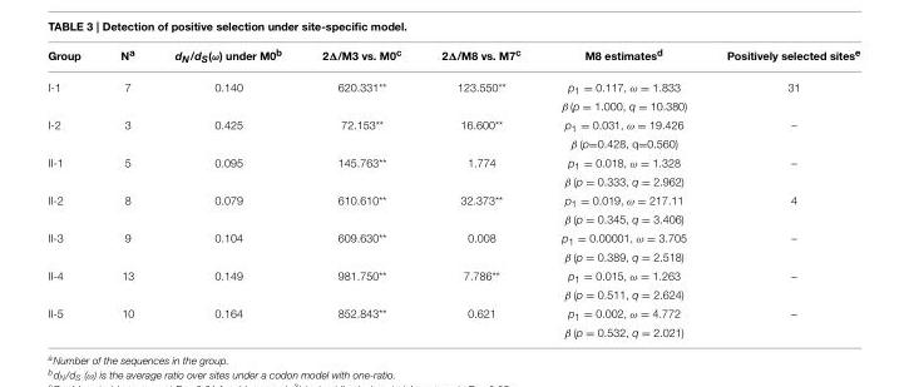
<table><thead><tr><td>Group</td><td>N<sup>a</sup></td><td>d<sub>N</sub>/d<sub>S</sub>(ω) under M0<sup>b</sup></td><td>2Δ/M3 vs. M0<sup>c</sup></td><td>2Δ/M8 vs. M7<sup>c</sup></td><td>M8 estimates<sup>d</sup></td><td>Positively selected sites<sup>e</sup></td></tr></thead><tbody><tr><td rowspan="2">I-1</td><td>7</td><td>0.140</td><td>620.331**</td><td>123.550**</td><td>p1 = 0.117, ω = 1.833</td><td>31</td></tr><tr><td></td><td></td><td></td><td></td><td>β (p = 1.000, q = 10.380)</td><td></td></tr><tr><td rowspan="2">I-2</td><td>3</td><td>0.425</td><td>72.153**</td><td>16.600**</td><td>p1 = 0.031, ω = 19.426</td><td>–</td></tr><tr><td></td><td></td><td></td><td></td><td>β (p=0.428, q=0.560)</td><td></td></tr><tr><td rowspan="2">II-1</td><td>5</td><td>0.095</td><td>145.763**</td><td>1.774</td><td>p1 = 0.018, ω = 1.328</td><td>–</td></tr><tr><td></td><td></td><td></td><td></td><td>β (p = 0.333, q = 2.962)</td><td></td></tr><tr><td rowspan="2">II-2</td><td>8</td><td>0.079</td><td>610.610**</td><td>32.373**</td><td>p1 = 0.019, ω = 217.11</td><td>4</td></tr><tr><td></td><td></td><td></td><td></td><td>β (p = 0.345, q = 3.406)</td><td></td></tr><tr><td rowspan="2">II-3</td><td>9</td><td>0.104</td><td>609.630**</td><td>0.008</td><td>p1 = 0.00001, ω = 3.705</td><td>–</td></tr><tr><td></td><td></td><td></td><td></td><td>β (p = 0.389, q = 2.518)</td><td></td></tr><tr><td rowspan="2">II-4</td><td>13</td><td>0.149</td><td>981.750**</td><td>7.786**</td><td>p1 = 0.015, ω = 1.263</td><td>–</td></tr><tr><td></td><td></td><td></td><td></td><td>β (p = 0.511, q = 2.624)</td><td></td></tr><tr><td rowspan="2">II-5</td><td>10</td><td>0.164</td><td>852.843**</td><td>0.621</td><td>p1 = 0.002, ω = 4.772</td><td>–</td></tr><tr><td></td><td></td><td></td><td></td><td>β (p = 0.532, q = 2.021)</td><td></td></tr></tbody></table>